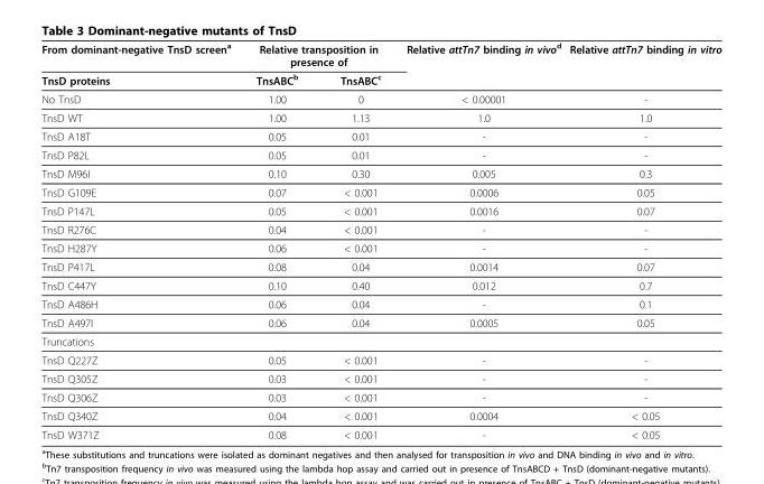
<table><thead><tr><td rowspan="2">From dominant-negative TnsD screen<sup>a</sup> TnsD proteins</td><td colspan="2">Relative transposition in presence of</td><td rowspan="2">Relative attTn7 binding in vivo<sup>d</sup></td><td rowspan="2">Relative attTn7 binding in vitro</td></tr><tr><td>TnsABC<sup>b</sup></td><td>TnsABC<sup>c</sup></td></tr></thead><tbody><tr><td>No TnsD</td><td>1.00</td><td>0</td><td>&lt; 0.00001</td><td>-</td></tr><tr><td>TnsD WT</td><td>1.00</td><td>1.13</td><td>1.0</td><td>1.0</td></tr><tr><td>TnsD A18T</td><td>0.05</td><td>0.01</td><td>-</td><td>-</td></tr><tr><td>TnsD P82L</td><td>0.05</td><td>0.01</td><td>-</td><td>-</td></tr><tr><td>TnsD M96I</td><td>0.10</td><td>0.30</td><td>0.005</td><td>0.3</td></tr><tr><td>TnsD G109E</td><td>0.07</td><td>&lt; 0.001</td><td>0.0006</td><td>0.05</td></tr><tr><td>TnsD P147L</td><td>0.05</td><td>&lt; 0.001</td><td>0.0016</td><td>0.07</td></tr><tr><td>TnsD R276C</td><td>0.04</td><td>&lt; 0.001</td><td>-</td><td>-</td></tr><tr><td>TnsD H287Y</td><td>0.06</td><td>&lt; 0.001</td><td>-</td><td>-</td></tr><tr><td>TnsD P417L</td><td>0.08</td><td>0.04</td><td>0.0014</td><td>0.07</td></tr><tr><td>TnsD C447Y</td><td>0.10</td><td>0.40</td><td>0.012</td><td>0.7</td></tr><tr><td>TnsD A486H</td><td>0.06</td><td>0.04</td><td>-</td><td>0.1</td></tr><tr><td>TnsD A497I</td><td>0.06</td><td>0.04</td><td>0.0005</td><td>0.05</td></tr><tr><td colspan="5">Truncations</td></tr><tr><td>TnsD Q227Z</td><td>0.05</td><td>&lt; 0.001</td><td>-</td><td>-</td></tr><tr><td>TnsD Q305Z</td><td>0.03</td><td>&lt; 0.001</td><td>-</td><td>-</td></tr><tr><td>TnsD Q306Z</td><td>0.03</td><td>&lt; 0.001</td><td>-</td><td>-</td></tr><tr><td>TnsD Q340Z</td><td>0.04</td><td>&lt; 0.001</td><td>0.0004</td><td>&lt; 0.05</td></tr><tr><td>TnsD W371Z</td><td>0.08</td><td>&lt; 0.001</td><td>-</td><td>&lt; 0.05</td></tr></tbody></table>